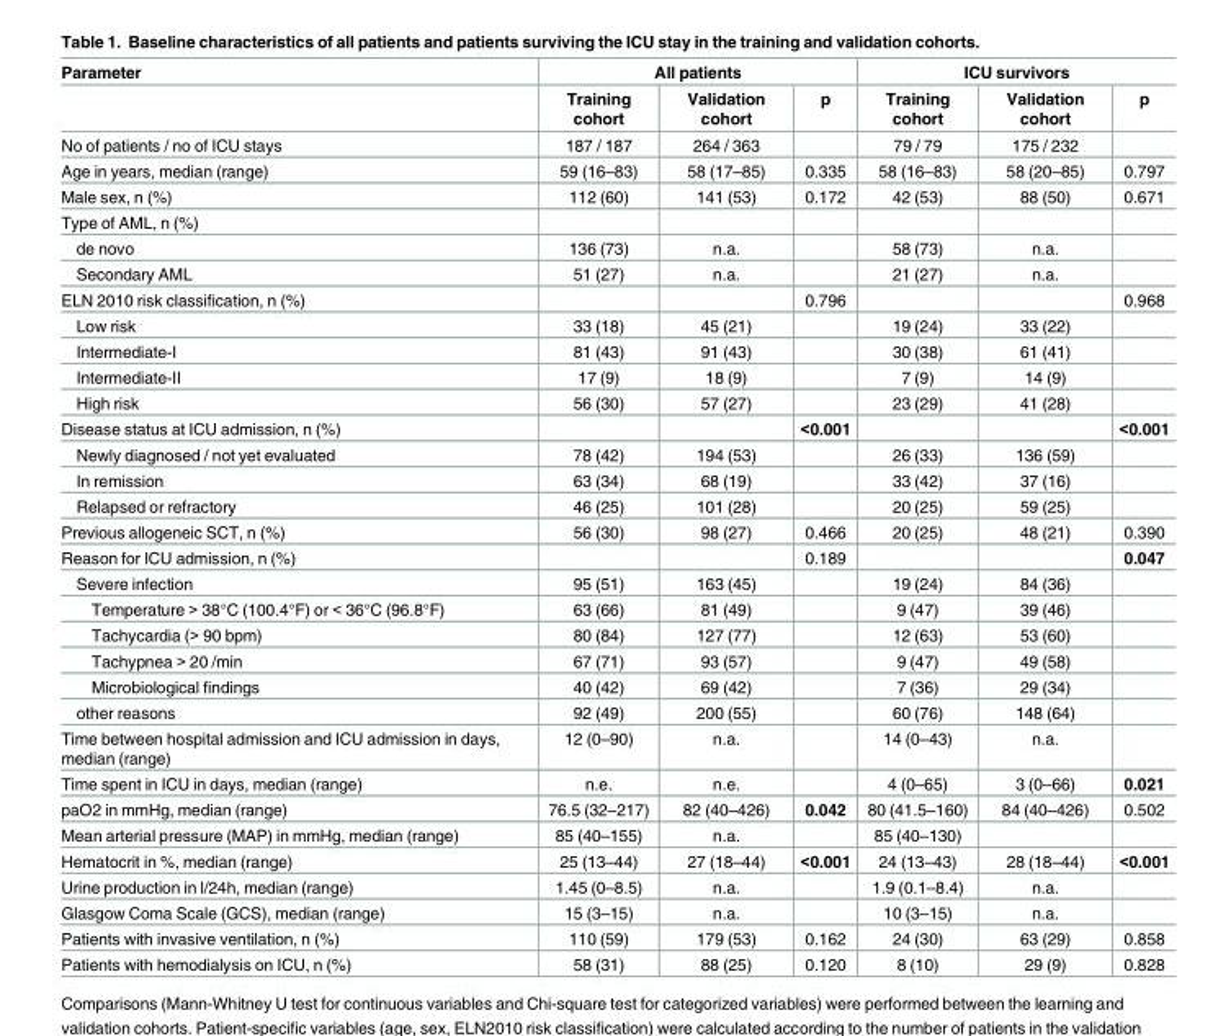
<table><thead><tr><td rowspan="2">Parameter</td><td colspan="3">All patients</td><td colspan="3">ICU survivors</td></tr><tr><td>Training cohort</td><td>Validation cohort</td><td>p</td><td>Training cohort</td><td>Validation cohort</td><td>p</td></tr></thead><tbody><tr><td>No of patients / no of ICU stays</td><td>187 / 187</td><td>264 / 363</td><td></td><td>79 / 79</td><td>175 / 232</td><td></td></tr><tr><td>Age in years, median (range)</td><td>59 (16–83)</td><td>58 (17–85)</td><td>0.335</td><td>58 (16–83)</td><td>58 (20–85)</td><td>0.797</td></tr><tr><td>Male sex, n (%)</td><td>112 (60)</td><td>141 (53)</td><td>0.172</td><td>42 (53)</td><td>88 (50)</td><td>0.671</td></tr><tr><td colspan="7">Type of AML, n (%)</td></tr><tr><td>de novo</td><td>136 (73)</td><td>n.a.</td><td></td><td>58 (73)</td><td>n.a.</td><td></td></tr><tr><td>Secondary AML</td><td>51 (27)</td><td>n.a.</td><td></td><td>21 (27)</td><td>n.a.</td><td></td></tr><tr><td>ELN 2010 risk classification, n (%)</td><td></td><td></td><td>0.796</td><td></td><td></td><td>0.968</td></tr><tr><td>Low risk</td><td>33 (18)</td><td>45 (21)</td><td></td><td>19 (24)</td><td>33 (22)</td><td></td></tr><tr><td>Intermediate-I</td><td>81 (43)</td><td>91 (43)</td><td></td><td>30 (38)</td><td>61 (41)</td><td></td></tr><tr><td>Intermediate-II</td><td>17 (9)</td><td>18 (9)</td><td></td><td>7 (9)</td><td>14 (9)</td><td></td></tr><tr><td>High risk</td><td>56 (30)</td><td>57 (27)</td><td></td><td>23 (29)</td><td>41 (28)</td><td></td></tr><tr><td>Disease status at ICU admission, n (%)</td><td></td><td></td><td>&lt;0.001</td><td></td><td></td><td>&lt;0.001</td></tr><tr><td>Newly diagnosed / not yet evaluated</td><td>78 (42)</td><td>194 (53)</td><td></td><td>26 (33)</td><td>136 (59)</td><td></td></tr><tr><td>In remission</td><td>63 (34)</td><td>68 (19)</td><td></td><td>33 (42)</td><td>37 (16)</td><td></td></tr><tr><td>Relapsed or refractory</td><td>46 (25)</td><td>101 (28)</td><td></td><td>20 (25)</td><td>59 (25)</td><td></td></tr><tr><td>Previous allogeneic SCT, n (%)</td><td>56 (30)</td><td>98 (27)</td><td>0.466</td><td>20 (25)</td><td>48 (21)</td><td>0.390</td></tr><tr><td>Reason for ICU admission, n (%)</td><td></td><td></td><td>0.189</td><td></td><td></td><td>0.047</td></tr><tr><td>Severe infection</td><td>95 (51)</td><td>163 (45)</td><td></td><td>19 (24)</td><td>84 (36)</td><td></td></tr><tr><td>Temperature &gt; 38°C (100.4°F) or &lt; 36°C (96.8°F)</td><td>63 (66)</td><td>81 (49)</td><td></td><td>9 (47)</td><td>39 (46)</td><td></td></tr><tr><td>Tachycardia (&gt; 90 bpm)</td><td>80 (84)</td><td>127 (77)</td><td></td><td>12 (63)</td><td>53 (60)</td><td></td></tr><tr><td>Tachypnea &gt; 20 /min</td><td>67 (71)</td><td>93 (57)</td><td></td><td>9 (47)</td><td>49 (58)</td><td></td></tr><tr><td>Microbiological findings</td><td>40 (42)</td><td>69 (42)</td><td></td><td>7 (36)</td><td>29 (34)</td><td></td></tr><tr><td>other reasons</td><td>92 (49)</td><td>200 (55)</td><td></td><td>60 (76)</td><td>148 (64)</td><td></td></tr><tr><td>Time between hospital admission and ICU admission in days, median (range)</td><td>12 (0–90)</td><td>n.a.</td><td></td><td>14 (0–43)</td><td>n.a.</td><td></td></tr><tr><td>Time spent in ICU in days, median (range)</td><td>n.e.</td><td>n.e.</td><td></td><td>4 (0–65)</td><td>3 (0–66)</td><td>0.021</td></tr><tr><td>paO2 in mmHg, median (range)</td><td>76.5 (32–217)</td><td>82 (40–426)</td><td>0.042</td><td>80 (41.5–160)</td><td>84 (40–426)</td><td>0.502</td></tr><tr><td>Mean arterial pressure (MAP) in mmHg, median (range)</td><td>85 (40–155)</td><td>n.a.</td><td></td><td>85 (40–130)</td><td></td><td></td></tr><tr><td>Hematocrit in %, median (range)</td><td>25 (13–44)</td><td>27 (18–44)</td><td>&lt;0.001</td><td>24 (13–43)</td><td>28 (18–44)</td><td>&lt;0.001</td></tr><tr><td>Urine production in l/24h, median (range)</td><td>1.45 (0–8.5)</td><td>n.a.</td><td></td><td>1.9 (0.1–8.4)</td><td>n.a.</td><td></td></tr><tr><td>Glasgow Coma Scale (GCS), median (range)</td><td>15 (3–15)</td><td>n.a.</td><td></td><td>10 (3–15)</td><td>n.a.</td><td></td></tr><tr><td>Patients with invasive ventilation, n (%)</td><td>110 (59)</td><td>179 (53)</td><td>0.162</td><td>24 (30)</td><td>63 (29)</td><td>0.858</td></tr><tr><td>Patients with hemodialysis on ICU, n (%)</td><td>58 (31)</td><td>88 (25)</td><td>0.120</td><td>8 (10)</td><td>29 (9)</td><td>0.828</td></tr></tbody></table>